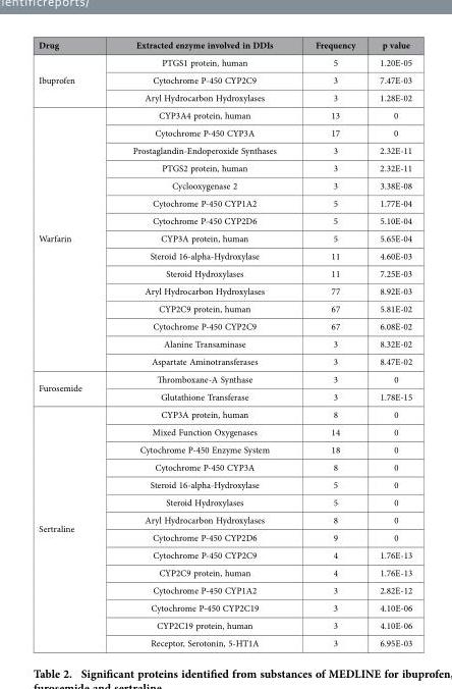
<table><thead><tr><td>Drug</td><td>Extracted enzyme involved in DDIs</td><td>Frequency</td><td>p value</td></tr></thead><tbody><tr><td rowspan="3">Ibuprofen</td><td>PTGS1 protein, human</td><td>5</td><td>1.20E-05</td></tr><tr><td>Cytochrome P-450 CYP2C9</td><td>3</td><td>7.47E-03</td></tr><tr><td>Aryl Hydrocarbon Hydroxylases</td><td>3</td><td>1.28E-02</td></tr><tr><td rowspan="15">Warfarin</td><td>CYP3A4 protein, human</td><td>13</td><td>0</td></tr><tr><td>Cytochrome P-450 CYP3A</td><td>17</td><td>0</td></tr><tr><td>Prostaglandin-Endoperoxide Synthases</td><td>3</td><td>2.32E-11</td></tr><tr><td>PTGS2 protein, human</td><td>3</td><td>2.32E-11</td></tr><tr><td>Cyclooxygenase 2</td><td>3</td><td>3.38E-08</td></tr><tr><td>Cytochrome P-450 CYP1A2</td><td>5</td><td>1.77E-04</td></tr><tr><td>Cytochrome P-450 CYP2D6</td><td>5</td><td>5.10E-04</td></tr><tr><td>CYP3A protein, human</td><td>5</td><td>5.65E-04</td></tr><tr><td>Steroid 16-alpha-Hydroxylase</td><td>11</td><td>4.60E-03</td></tr><tr><td>Steroid Hydroxylases</td><td>11</td><td>7.25E-03</td></tr><tr><td>Aryl Hydrocarbon Hydroxylases</td><td>77</td><td>8.92E-03</td></tr><tr><td>CYP2C9 protein, human</td><td>67</td><td>5.81E-02</td></tr><tr><td>Cytochrome P-450 CYP2C9</td><td>67</td><td>6.08E-02</td></tr><tr><td>Alanine Transaminase</td><td>3</td><td>8.32E-02</td></tr><tr><td>Aspartate Aminotransferases</td><td>3</td><td>8.47E-02</td></tr><tr><td rowspan="2">Furosemide</td><td>Thromboxane-A Synthase</td><td>3</td><td>0</td></tr><tr><td>Glutathione Transferase</td><td>3</td><td>1.78E-15</td></tr><tr><td rowspan="14">Sertraline</td><td>CYP3A protein, human</td><td>8</td><td>0</td></tr><tr><td>Mixed Function Oxygenases</td><td>14</td><td>0</td></tr><tr><td>Cytochrome P-450 Enzyme System</td><td>18</td><td>0</td></tr><tr><td>Cytochrome P-450 CYP3A</td><td>8</td><td>0</td></tr><tr><td>Steroid 16-alpha-Hydroxylase</td><td>5</td><td>0</td></tr><tr><td>Steroid Hydroxylases</td><td>5</td><td>0</td></tr><tr><td>Aryl Hydrocarbon Hydroxylases</td><td>8</td><td>0</td></tr><tr><td>Cytochrome P-450 CYP2D6</td><td>9</td><td>0</td></tr><tr><td>Cytochrome P-450 CYP2C9</td><td>4</td><td>1.76E-13</td></tr><tr><td>CYP2C9 protein, human</td><td>4</td><td>1.76E-13</td></tr><tr><td>Cytochrome P-450 CYP1A2</td><td>3</td><td>2.82E-12</td></tr><tr><td>Cytochrome P-450 CYP2C19</td><td>3</td><td>4.10E-06</td></tr><tr><td>CYP2C19 protein, human</td><td>3</td><td>4.10E-06</td></tr><tr><td>Receptor, Serotonin, 5-HT1A</td><td>3</td><td>6.95E-03</td></tr></tbody></table>